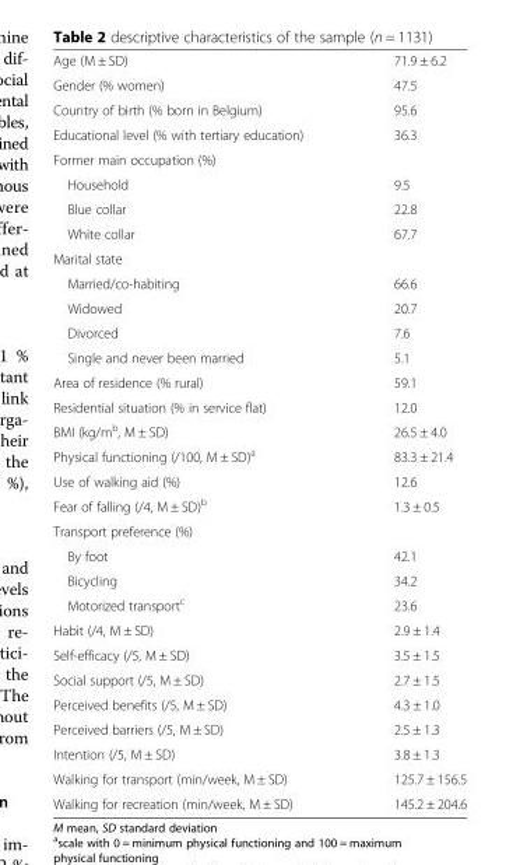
<table><tbody><tr><td>Age (M ± SD)</td><td>71.9 ± 6.2</td></tr><tr><td>Gender (% women)</td><td>47.5</td></tr><tr><td>Country of birth (% born in Belgium)</td><td>95.6</td></tr><tr><td>Educational level (% with tertiary education)</td><td>36.3</td></tr><tr><td colspan="2">Former main occupation (%)</td></tr><tr><td>Household</td><td>9.5</td></tr><tr><td>Blue collar</td><td>22.8</td></tr><tr><td>White collar</td><td>67.7</td></tr><tr><td colspan="2">Marital state</td></tr><tr><td>Married/co-habiting</td><td>66.6</td></tr><tr><td>Widowed</td><td>20.7</td></tr><tr><td>Divorced</td><td>7.6</td></tr><tr><td>Single and never been married</td><td>5.1</td></tr><tr><td>Area of residence (% rural)</td><td>59.1</td></tr><tr><td>Residential situation (% in service flat)</td><td>12.0</td></tr><tr><td>BMI (kg/m<sup>b</sup>, M ± SD)</td><td>26.5 ± 4.0</td></tr><tr><td>Physical functioning (/100, M ± SD)<sup>a</sup></td><td>83.3 ± 21.4</td></tr><tr><td>Use of walking aid (%)</td><td>12.6</td></tr><tr><td>Fear of falling (/4, M ± SD)<sup>b</sup></td><td>1.3 ± 0.5</td></tr><tr><td colspan="2">Transport preference (%)</td></tr><tr><td>By foot</td><td>42.1</td></tr><tr><td>Bicycling</td><td>34.2</td></tr><tr><td>Motorized transport<sup>c</sup></td><td>23.6</td></tr><tr><td>Habit (/4, M ± SD)</td><td>2.9 ± 1.4</td></tr><tr><td>Self-efficacy (/5, M ± SD)</td><td>3.5 ± 1.5</td></tr><tr><td>Social support (/5, M ± SD)</td><td>2.7 ± 1.5</td></tr><tr><td>Perceived benefits (/5, M ± SD)</td><td>4.3 ± 1.0</td></tr><tr><td>Perceived barriers (/5, M ± SD)</td><td>2.5 ± 1.3</td></tr><tr><td>Intention (/5, M ± SD)</td><td>3.8 ± 1.3</td></tr><tr><td>Walking for transport (min/week, M ± SD)</td><td>125.7 ± 156.5</td></tr><tr><td>Walking for recreation (min/week, M ± SD)</td><td>145.2 ± 204.6</td></tr></tbody></table>